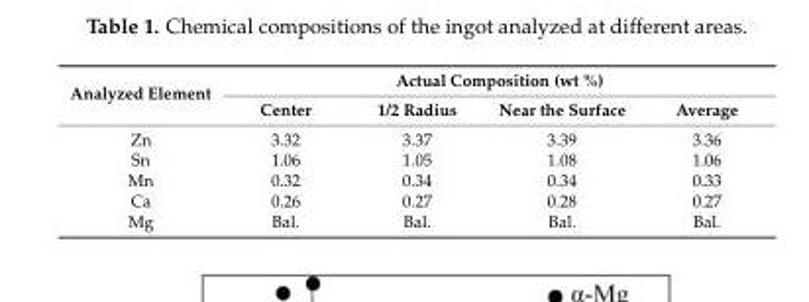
<table><thead><tr><td rowspan="2">Analyzed Element</td><td colspan="4">Actual Composition (wt %)</td></tr><tr><td>Center</td><td>1/2 Radius</td><td>Near the Surface</td><td>Average</td></tr></thead><tbody><tr><td>Zn</td><td>3.32</td><td>3.37</td><td>3.39</td><td>3.36</td></tr><tr><td>Sn</td><td>1.06</td><td>1.05</td><td>1.08</td><td>1.06</td></tr><tr><td>Mn</td><td>0.32</td><td>0.34</td><td>0.34</td><td>0.33</td></tr><tr><td>Ca</td><td>0.26</td><td>0.27</td><td>0.28</td><td>0.27</td></tr><tr><td>Mg</td><td>Bal.</td><td>Bal.</td><td>Bal.</td><td>Bal.</td></tr></tbody></table>